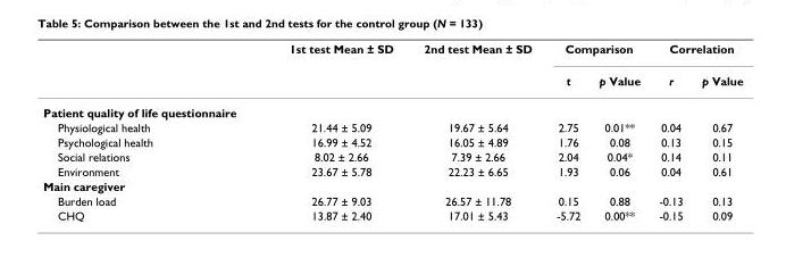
<table><thead><tr><td rowspan="2"></td><td rowspan="2">1st test Mean ± SD</td><td rowspan="2">2nd test Mean ± SD</td><td colspan="2">Comparison</td><td colspan="2">Correlation</td></tr><tr><td>t</td><td>p Value</td><td>r</td><td>p Value</td></tr></thead><tbody><tr><td colspan="7">Patient quality of life questionnaire</td></tr><tr><td>Physiological health</td><td>21.44 ± 5.09</td><td>19.67 ± 5.64</td><td>2.75</td><td>0.01**</td><td>0.04</td><td>0.67</td></tr><tr><td>Psychological health</td><td>16.99 ± 4.52</td><td>16.05 ± 4.89</td><td>1.76</td><td>0.08</td><td>0.13</td><td>0.15</td></tr><tr><td>Social relations</td><td>8.02 ± 2.66</td><td>7.39 ± 2.66</td><td>2.04</td><td>0.04*</td><td>0.14</td><td>0.11</td></tr><tr><td>Environment</td><td>23.67 ± 5.78</td><td>22.23 ± 6.65</td><td>1.93</td><td>0.06</td><td>0.04</td><td>0.61</td></tr><tr><td colspan="7">Main caregiver</td></tr><tr><td>Burden load</td><td>26.77 ± 9.03</td><td>26.57 ± 11.78</td><td>0.15</td><td>0.88</td><td>-0.13</td><td>0.13</td></tr><tr><td>CHQ</td><td>13.87 ± 2.40</td><td>17.01 ± 5.43</td><td>-5.72</td><td>0.00**</td><td>-0.15</td><td>0.09</td></tr></tbody></table>